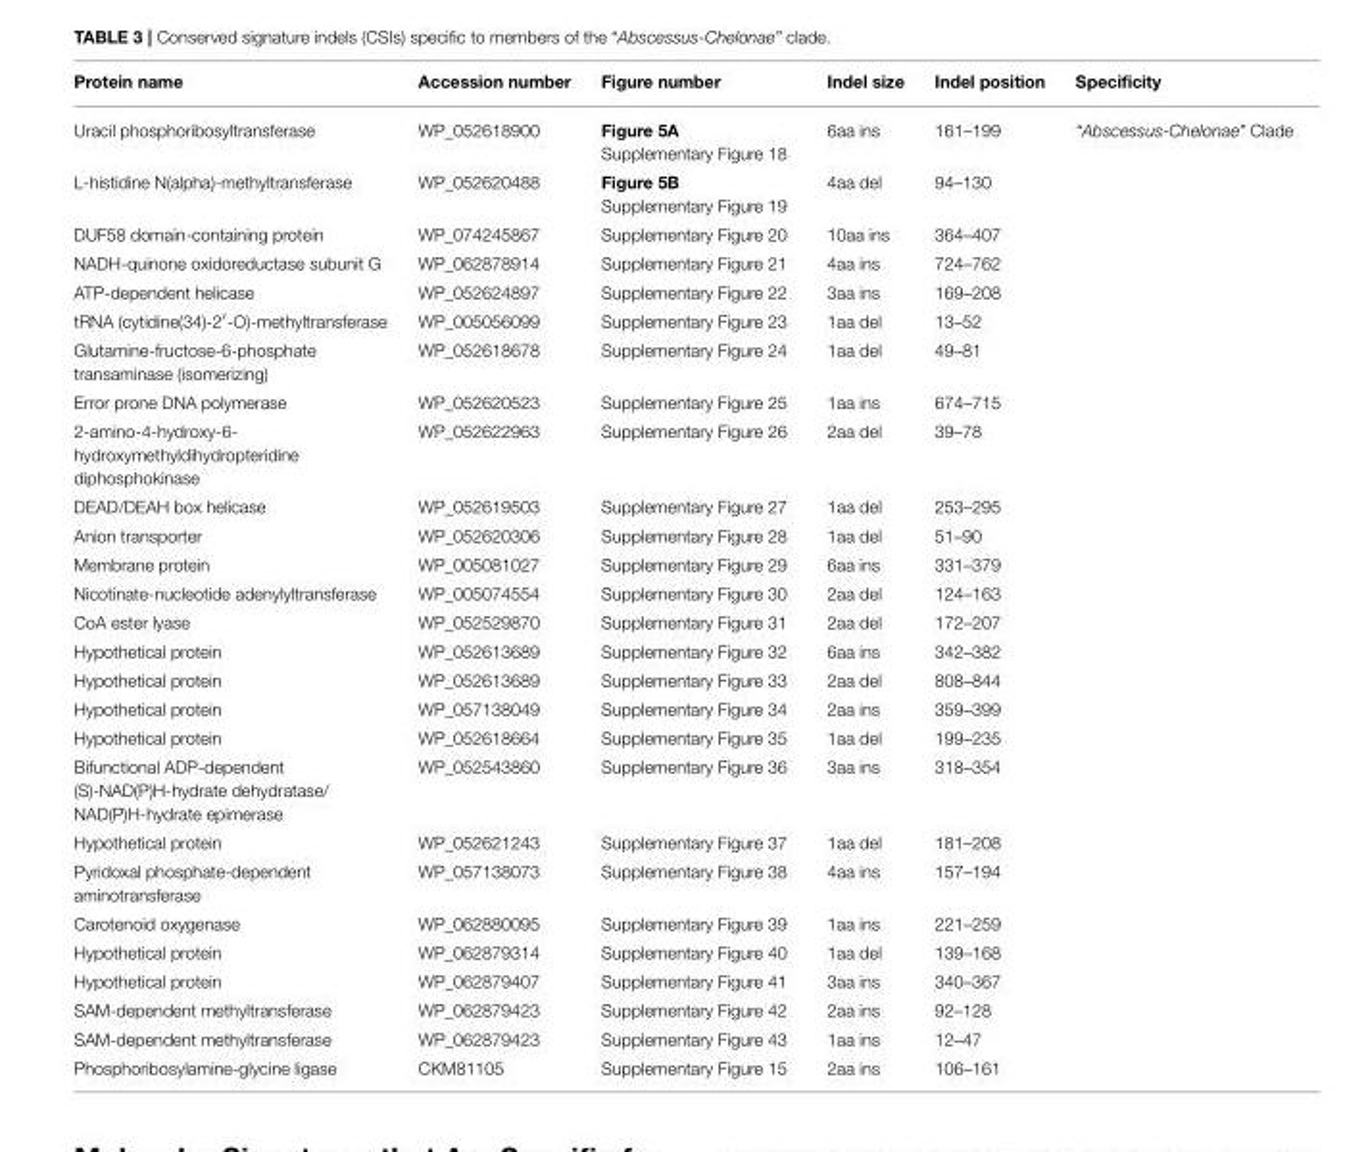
<table><thead><tr><td>Protein name</td><td>Accession number</td><td>Figure number</td><td>Indel size</td><td>Indel position</td><td>Specificity</td></tr></thead><tbody><tr><td>Uracil phosphoribosyltransferase</td><td>WP_052618900</td><td>Figure 5A Supplementary Figure 18</td><td>6aa ins</td><td>161–199</td><td>“Abscessus-Chelonae” Clade</td></tr><tr><td>L-histidine N(alpha)-methyltransferase</td><td>WP_052620488</td><td>Figure 5B Supplementary Figure 19</td><td>4aa del</td><td>94–130</td><td></td></tr><tr><td>DUF58 domain-containing protein</td><td>WP_074245867</td><td>Supplementary Figure 20</td><td>10aa ins</td><td>364–407</td><td></td></tr><tr><td>NADH-quinone oxidoreductase subunit G</td><td>WP_062878914</td><td>Supplementary Figure 21</td><td>4aa ins</td><td>724–762</td><td></td></tr><tr><td>ATP-dependent helicase</td><td>WP_052624897</td><td>Supplementary Figure 22</td><td>3aa ins</td><td>169–208</td><td></td></tr><tr><td>tRNA (cytidine(34)-2′-O)-methyltransferase</td><td>WP_005056099</td><td>Supplementary Figure 23</td><td>1aa del</td><td>13–52</td><td></td></tr><tr><td>Glutamine-fructose-6-phosphate transaminase (isomerizing)</td><td>WP_052618678</td><td>Supplementary Figure 24</td><td>1aa del</td><td>49–81</td><td></td></tr><tr><td>Error prone DNA polymerase</td><td>WP_052620523</td><td>Supplementary Figure 25</td><td>1aa ins</td><td>674–715</td><td></td></tr><tr><td>2-amino-4-hydroxy-6- hydroxymethyldihydropteridine diphosphokinase</td><td>WP_052622963</td><td>Supplementary Figure 26</td><td>2aa del</td><td>39–78</td><td></td></tr><tr><td>DEAD/DEAH box helicase</td><td>WP_052619503</td><td>Supplementary Figure 27</td><td>1aa del</td><td>253–295</td><td></td></tr><tr><td>Anion transporter</td><td>WP_052620306</td><td>Supplementary Figure 28</td><td>1aa del</td><td>51–90</td><td></td></tr><tr><td>Membrane protein</td><td>WP_005081027</td><td>Supplementary Figure 29</td><td>6aa ins</td><td>331–379</td><td></td></tr><tr><td>Nicotinate-nucleotide adenylyltransferase</td><td>WP_005074554</td><td>Supplementary Figure 30</td><td>2aa del</td><td>124–163</td><td></td></tr><tr><td>CoA ester lyase</td><td>WP_052529870</td><td>Supplementary Figure 31</td><td>2aa del</td><td>172–207</td><td></td></tr><tr><td>Hypothetical protein</td><td>WP_052613689</td><td>Supplementary Figure 32</td><td>6aa ins</td><td>342–382</td><td></td></tr><tr><td>Hypothetical protein</td><td>WP_052613689</td><td>Supplementary Figure 33</td><td>2aa del</td><td>808–844</td><td></td></tr><tr><td>Hypothetical protein</td><td>WP_057138049</td><td>Supplementary Figure 34</td><td>2aa ins</td><td>359–399</td><td></td></tr><tr><td>Hypothetical protein</td><td>WP_052618664</td><td>Supplementary Figure 35</td><td>1aa del</td><td>199–235</td><td></td></tr><tr><td>Bifunctional ADP-dependent (S)-NAD(P)H-hydrate dehydratase/ NAD(P)H-hydrate epimerase</td><td>WP_052543860</td><td>Supplementary Figure 36</td><td>3aa ins</td><td>318–354</td><td></td></tr><tr><td>Hypothetical protein</td><td>WP_052621243</td><td>Supplementary Figure 37</td><td>1aa del</td><td>181–208</td><td></td></tr><tr><td>Pyridoxal phosphate-dependent aminotransferase</td><td>WP_057138073</td><td>Supplementary Figure 38</td><td>4aa ins</td><td>157–194</td><td></td></tr><tr><td>Carotenoid oxygenase</td><td>WP_062880095</td><td>Supplementary Figure 39</td><td>1aa ins</td><td>221–259</td><td></td></tr><tr><td>Hypothetical protein</td><td>WP_062879314</td><td>Supplementary Figure 40</td><td>1aa del</td><td>139–168</td><td></td></tr><tr><td>Hypothetical protein</td><td>WP_062879407</td><td>Supplementary Figure 41</td><td>3aa ins</td><td>340–367</td><td></td></tr><tr><td>SAM-dependent methyltransferase</td><td>WP_062879423</td><td>Supplementary Figure 42</td><td>2aa ins</td><td>92–128</td><td></td></tr><tr><td>SAM-dependent methyltransferase</td><td>WP_062879423</td><td>Supplementary Figure 43</td><td>1aa ins</td><td>12–47</td><td></td></tr><tr><td>Phosphoribosylamine-glycine ligase</td><td>CKM81105</td><td>Supplementary Figure 15</td><td>2aa ins</td><td>106–161</td><td></td></tr></tbody></table>